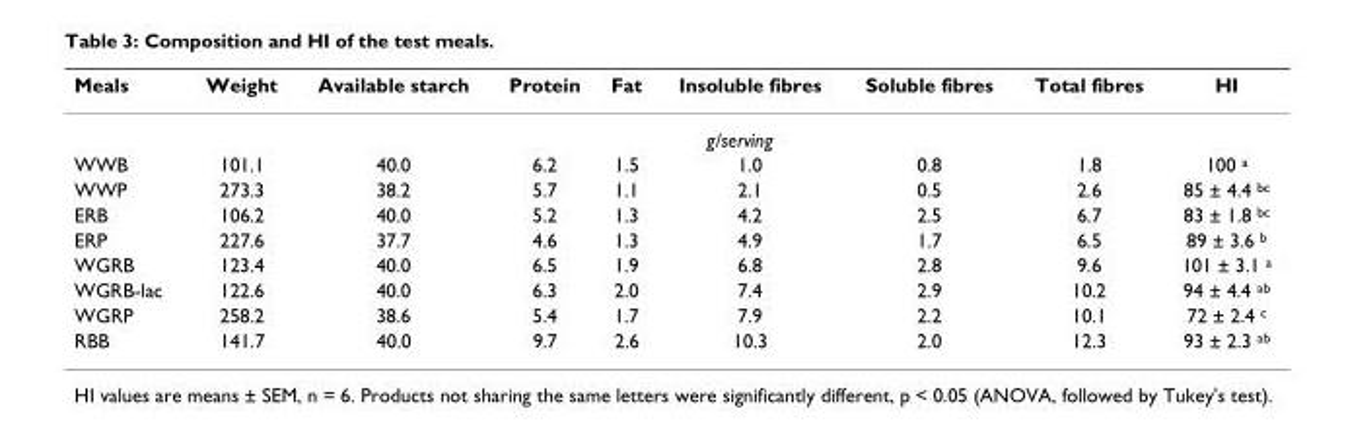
<table><thead><tr><td>Meals</td><td>Weight</td><td>Available starch</td><td>Protein</td><td>Fat</td><td>Insoluble fibres</td><td>Soluble fibres</td><td>Total fibres</td><td>HI</td></tr></thead><tbody><tr><td></td><td colspan="8">g/serving</td></tr><tr><td>WWB</td><td>101.1</td><td>40.0</td><td>6.2</td><td>1.5</td><td>1.0</td><td>0.8</td><td>1.8</td><td>100 <sup>a</sup></td></tr><tr><td>WWP</td><td>273.3</td><td>38.2</td><td>5.7</td><td>1.1</td><td>2.1</td><td>0.5</td><td>2.6</td><td>85 ± 4.4 <sup>bc</sup></td></tr><tr><td>ERB</td><td>106.2</td><td>40.0</td><td>5.2</td><td>1.3</td><td>4.2</td><td>2.5</td><td>6.7</td><td>83 ± 1.8 <sup>bc</sup></td></tr><tr><td>ERP</td><td>227.6</td><td>37.7</td><td>4.6</td><td>1.3</td><td>4.9</td><td>1.7</td><td>6.5</td><td>89 ± 3.6 <sup>b</sup></td></tr><tr><td>WGRB</td><td>123.4</td><td>40.0</td><td>6.5</td><td>1.9</td><td>6.8</td><td>2.8</td><td>9.6</td><td>101 ± 3.1 <sup>a</sup></td></tr><tr><td>WGRB-lac</td><td>122.6</td><td>40.0</td><td>6.3</td><td>2.0</td><td>7.4</td><td>2.9</td><td>10.2</td><td>94 ± 4.4 <sup>ab</sup></td></tr><tr><td>WGRP</td><td>258.2</td><td>38.6</td><td>5.4</td><td>1.7</td><td>7.9</td><td>2.2</td><td>10.1</td><td>72 ± 2.4 <sup>c</sup></td></tr><tr><td>RBB</td><td>141.7</td><td>40.0</td><td>9.7</td><td>2.6</td><td>10.3</td><td>2.0</td><td>12.3</td><td>93 ± 2.3 <sup>ab</sup></td></tr></tbody></table>